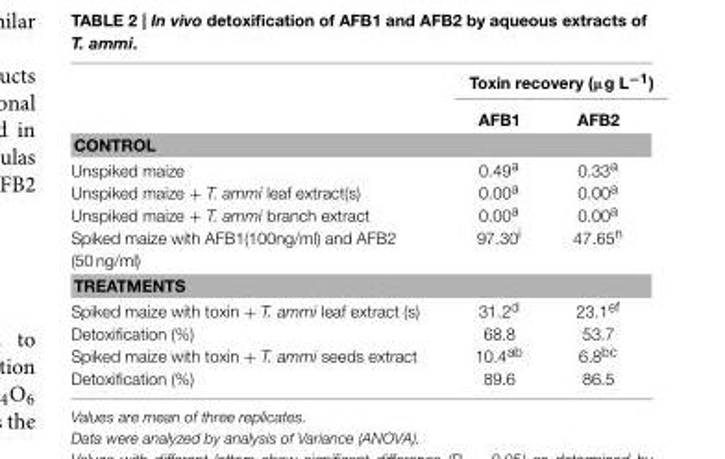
<table><thead><tr><td rowspan="2"></td><td colspan="2">Toxin recovery (µg L<sup>−1</sup>)</td></tr><tr><td>AFB1</td><td>AFB2</td></tr></thead><tbody><tr><td colspan="3">CONTROL</td></tr><tr><td>Unspiked maize Unspiked maize + T. ammi leaf extract(s) Unspiked maize + T. ammi branch extract Spiked maize with AFB1(100ng/ml) and AFB2 (50 ng/ml)</td><td>0.49<sup>a</sup> 0.00<sup>a</sup> 0.00<sup>a</sup> 97.30<sup>i</sup></td><td>0.33<sup>a</sup> 0.00<sup>a</sup> 0.00<sup>a</sup> 47.65<sup>n</sup></td></tr><tr><td colspan="3">TREATMENTS</td></tr><tr><td>Spiked maize with toxin + T. ammi leaf extract (s) Detoxification (%) Spiked maize with toxin + T. ammi seeds extract Detoxification (%)</td><td>31.2<sup>d</sup> 68.8 10.4<sup>ab</sup> 89.6</td><td>23.1<sup>ef</sup> 53.7 6.8<sup>bc</sup> 86.5</td></tr></tbody></table>